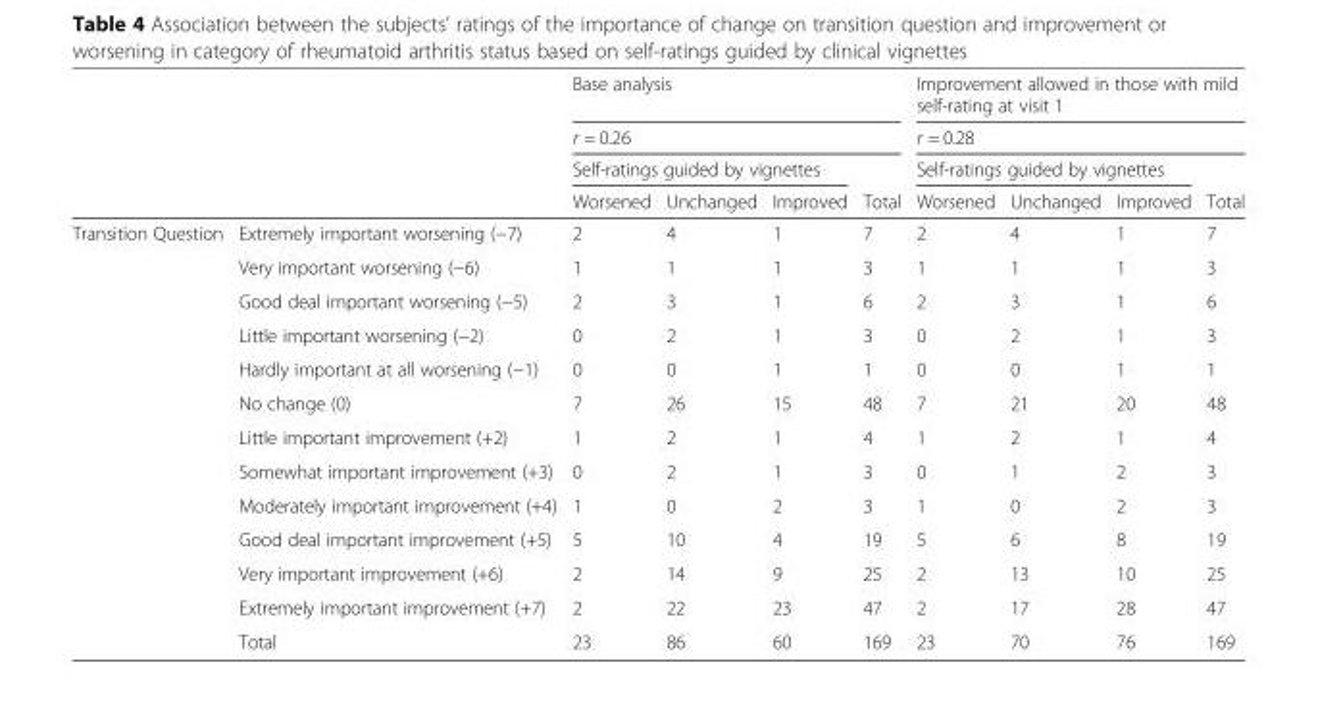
<table><thead><tr><td rowspan="4"></td><td rowspan="4"></td><td rowspan="2" colspan="4">Base analysis r = 0.26</td><td rowspan="2" colspan="4">Improvement allowed in those with mild self-rating at visit 1 r = 0.28</td></tr><tr></tr><tr><td colspan="3">Self-ratings guided by vignettes</td><td rowspan="2">Total</td><td colspan="3">Self-ratings guided by vignettes</td><td rowspan="2">Total</td></tr><tr><td>Worsened</td><td>Unchanged</td><td>Improved</td><td>Worsened</td><td>Unchanged</td><td>Improved</td></tr></thead><tbody><tr><td rowspan="13">Transition Question</td><td>Extremely important worsening (−7)</td><td>2</td><td>4</td><td>1</td><td>7</td><td>2</td><td>4</td><td>1</td><td>7</td></tr><tr><td>Very important worsening (−6)</td><td>1</td><td>1</td><td>1</td><td>3</td><td>1</td><td>1</td><td>1</td><td>3</td></tr><tr><td>Good deal important worsening (−5)</td><td>2</td><td>3</td><td>1</td><td>6</td><td>2</td><td>3</td><td>1</td><td>6</td></tr><tr><td>Little important worsening (−2)</td><td>0</td><td>2</td><td>1</td><td>3</td><td>0</td><td>2</td><td>1</td><td>3</td></tr><tr><td>Hardly important at all worsening (−1)</td><td>0</td><td>0</td><td>1</td><td>1</td><td>0</td><td>0</td><td>1</td><td>1</td></tr><tr><td>No change (0)</td><td>7</td><td>26</td><td>15</td><td>48</td><td>7</td><td>21</td><td>20</td><td>48</td></tr><tr><td>Little important improvement (+2)</td><td>1</td><td>2</td><td>1</td><td>4</td><td>1</td><td>2</td><td>1</td><td>4</td></tr><tr><td>Somewhat important improvement (+3)</td><td>0</td><td>2</td><td>1</td><td>3</td><td>0</td><td>1</td><td>2</td><td>3</td></tr><tr><td>Moderately important improvement (+4)</td><td>1</td><td>0</td><td>2</td><td>3</td><td>1</td><td>0</td><td>2</td><td>3</td></tr><tr><td>Good deal important improvement (+5)</td><td>5</td><td>10</td><td>4</td><td>19</td><td>5</td><td>6</td><td>8</td><td>19</td></tr><tr><td>Very important improvement (+6)</td><td>2</td><td>14</td><td>9</td><td>25</td><td>2</td><td>13</td><td>10</td><td>25</td></tr><tr><td>Extremely important improvement (+7)</td><td>2</td><td>22</td><td>23</td><td>47</td><td>2</td><td>17</td><td>28</td><td>47</td></tr><tr><td>Total</td><td>23</td><td>86</td><td>60</td><td>169</td><td>23</td><td>70</td><td>76</td><td>169</td></tr></tbody></table>